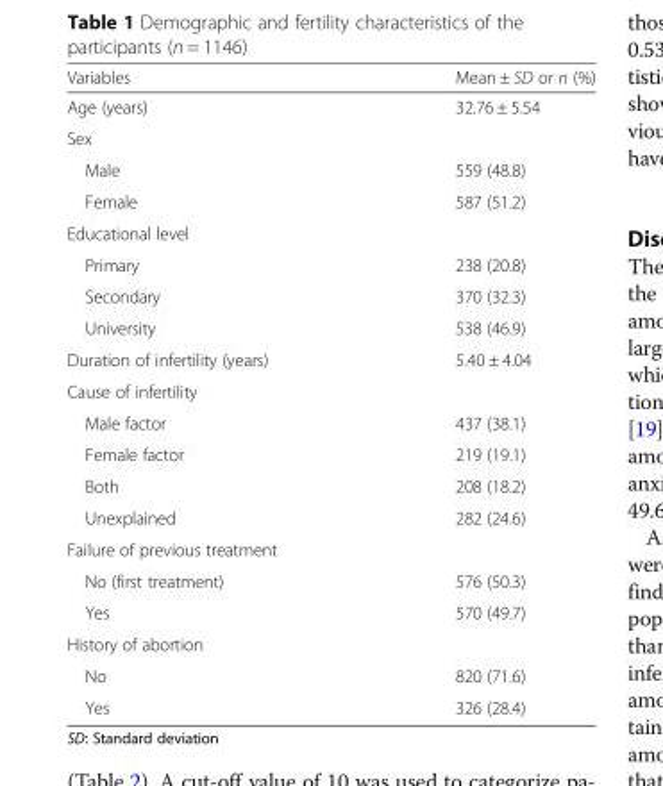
<table><thead><tr><td>Variables</td><td>Mean ± SD or n (%)</td></tr></thead><tbody><tr><td>Age (years)</td><td>32.76 ± 5.54</td></tr><tr><td colspan="2">Sex</td></tr><tr><td>Male</td><td>559 (48.8)</td></tr><tr><td>Female</td><td>587 (51.2)</td></tr><tr><td colspan="2">Educational level</td></tr><tr><td>Primary</td><td>238 (20.8)</td></tr><tr><td>Secondary</td><td>370 (32.3)</td></tr><tr><td>University</td><td>538 (46.9)</td></tr><tr><td>Duration of infertility (years)</td><td>5.40 ± 4.04</td></tr><tr><td colspan="2">Cause of infertility</td></tr><tr><td>Male factor</td><td>437 (38.1)</td></tr><tr><td>Female factor</td><td>219 (19.1)</td></tr><tr><td>Both</td><td>208 (18.2)</td></tr><tr><td>Unexplained</td><td>282 (24.6)</td></tr><tr><td colspan="2">Failure of previous treatment</td></tr><tr><td>No (first treatment)</td><td>576 (50.3)</td></tr><tr><td>Yes</td><td>570 (49.7)</td></tr><tr><td colspan="2">History of abortion</td></tr><tr><td>No</td><td>820 (71.6)</td></tr><tr><td>Yes</td><td>326 (28.4)</td></tr></tbody></table>